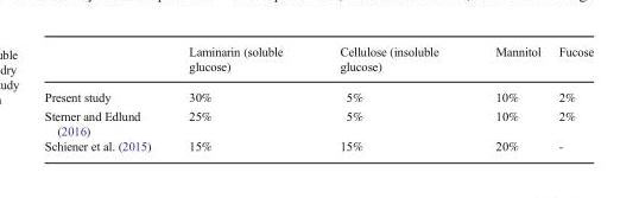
<table><thead><tr><td></td><td>Laminarin (soluble glucose)</td><td>Cellulose (insoluble glucose)</td><td>Mannitol</td><td>Fucose</td></tr></thead><tbody><tr><td>Present study</td><td>30%</td><td>5%</td><td>10%</td><td>2%</td></tr><tr><td>Sterner and Edlund (2016)</td><td>25%</td><td>5%</td><td>10%</td><td>2%</td></tr><tr><td>Schiener et al. (2015)</td><td>15%</td><td>15%</td><td>20%</td><td>-</td></tr></tbody></table>